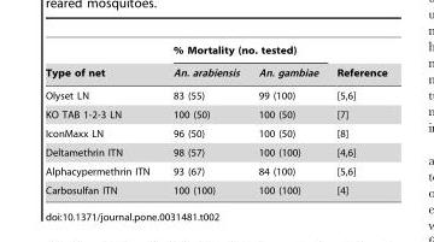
<table><thead><tr><td rowspan="2">Type of net</td><td colspan="2">% Mortality (no. tested)</td><td rowspan="2">Reference</td></tr><tr><td>An. arabiensis</td><td>An. gambiae</td></tr></thead><tbody><tr><td>Olyset LN</td><td>83 (55)</td><td>99 (100)</td><td>[5,6]</td></tr><tr><td>KO TAB 1-2-3 LN</td><td>100 (50)</td><td>100 (50)</td><td>[7]</td></tr><tr><td>IconMaxx LN</td><td>96 (50)</td><td>100 (50)</td><td>[8]</td></tr><tr><td>Deltamethrin ITN</td><td>98 (57)</td><td>100 (100)</td><td>[4,6]</td></tr><tr><td>Alphacypermethrin ITN</td><td>93 (67)</td><td>84 (100)</td><td>[5,6]</td></tr><tr><td>Carbosulfan ITN</td><td>100 (100)</td><td>100 (100)</td><td>[4]</td></tr></tbody></table>